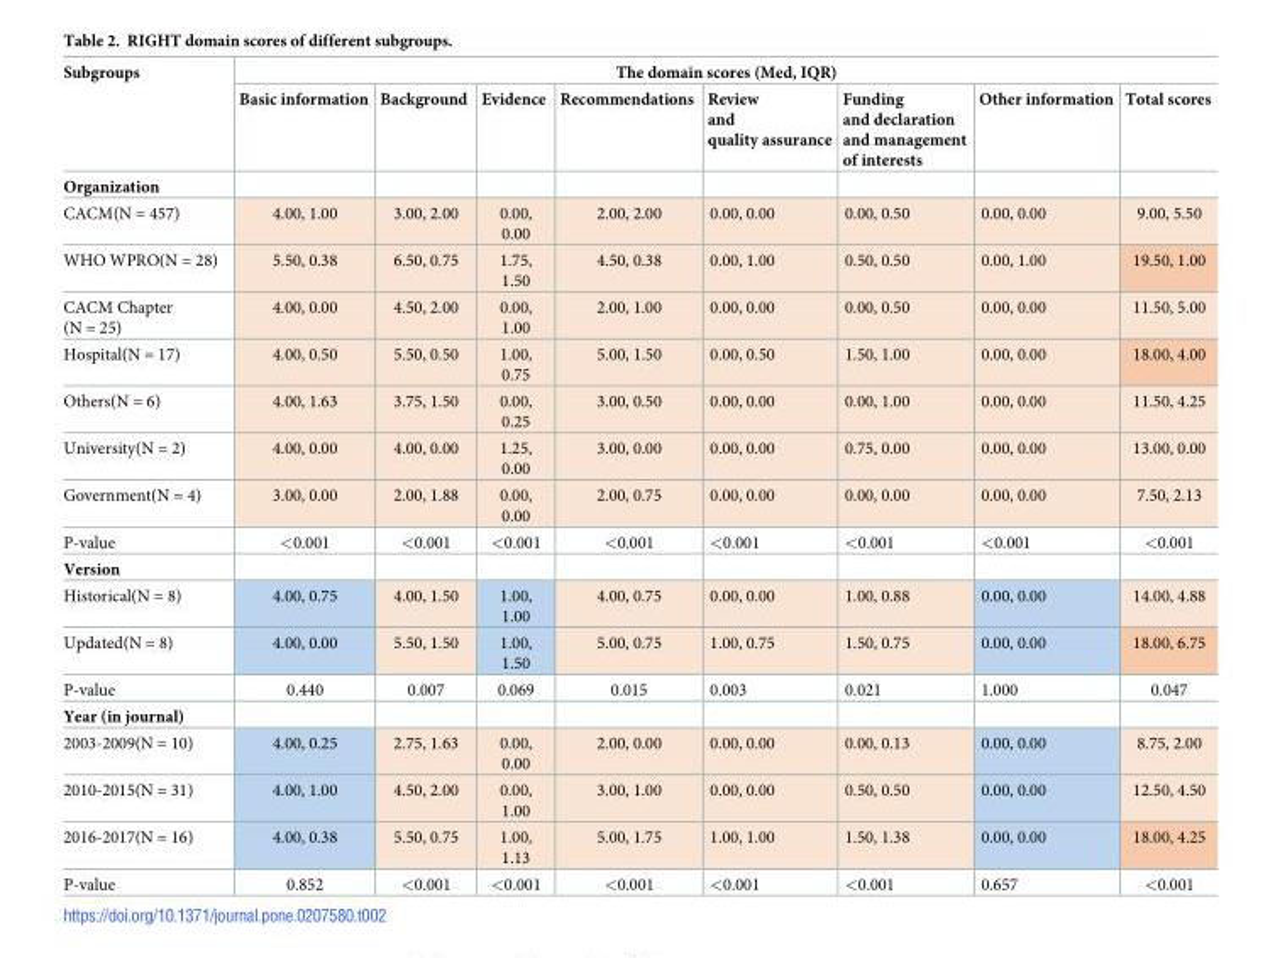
<table><thead><tr><td rowspan="2">Subgroups</td><td colspan="8">The domain scores (Med, IQR)</td></tr><tr><td>Basic information</td><td>Background</td><td>Evidence</td><td>Recommendations</td><td>Review and quality assurance</td><td>Funding and declaration and management of interests</td><td>Other information</td><td>Total scores</td></tr></thead><tbody><tr><td colspan="9">Organization</td></tr><tr><td>CACM(N = 457)</td><td>4.00, 1.00</td><td>3.00, 2.00</td><td>0.00, 0.00</td><td>2.00, 2.00</td><td>0.00, 0.00</td><td>0.00, 0.50</td><td>0.00, 0.00</td><td>9.00, 5.50</td></tr><tr><td>WHO WPRO(N = 28)</td><td>5.50, 0.38</td><td>6.50, 0.75</td><td>1.75, 1.50</td><td>4.50, 0.38</td><td>0.00, 1.00</td><td>0.50, 0.50</td><td>0.00, 1.00</td><td>19.50, 1.00</td></tr><tr><td>CACM Chapter (N = 25)</td><td>4.00, 0.00</td><td>4.50, 2.00</td><td>0.00, 1.00</td><td>2.00, 1.00</td><td>0.00, 0.00</td><td>0.00, 0.50</td><td>0.00, 0.00</td><td>11.50, 5.00</td></tr><tr><td>Hospital(N = 17)</td><td>4.00, 0.50</td><td>5.50, 0.50</td><td>1.00, 0.75</td><td>5.00, 1.50</td><td>0.00, 0.50</td><td>1.50, 1.00</td><td>0.00, 0.00</td><td>18.00, 4.00</td></tr><tr><td>Others(N = 6)</td><td>4.00, 1.63</td><td>3.75, 1.50</td><td>0.00, 0.25</td><td>3.00, 0.50</td><td>0.00, 0.00</td><td>0.00, 1.00</td><td>0.00, 0.00</td><td>11.50, 4.25</td></tr><tr><td>University(N = 2)</td><td>4.00, 0.00</td><td>4.00, 0.00</td><td>1.25, 0.00</td><td>3.00, 0.00</td><td>0.00, 0.00</td><td>0.75, 0.00</td><td>0.00, 0.00</td><td>13.00, 0.00</td></tr><tr><td>Government(N = 4)</td><td>3.00, 0.00</td><td>2.00, 1.88</td><td>0.00, 0.00</td><td>2.00, 0.75</td><td>0.00, 0.00</td><td>0.00, 0.00</td><td>0.00, 0.00</td><td>7.50, 2.13</td></tr><tr><td>P-value</td><td>&lt;0.001</td><td>&lt;0.001</td><td>&lt;0.001</td><td>&lt;0.001</td><td>&lt;0.001</td><td>&lt;0.001</td><td>&lt;0.001</td><td>&lt;0.001</td></tr><tr><td colspan="9">Version</td></tr><tr><td>Historical(N = 8)</td><td>4.00, 0.75</td><td>4.00, 1.50</td><td>1.00, 1.00</td><td>4.00, 0.75</td><td>0.00, 0.00</td><td>1.00, 0.88</td><td>0.00, 0.00</td><td>14.00, 4.88</td></tr><tr><td>Updated(N = 8)</td><td>4.00, 0.00</td><td>5.50, 1.50</td><td>1.00, 1.50</td><td>5.00, 0.75</td><td>1.00, 0.75</td><td>1.50, 0.75</td><td>0.00, 0.00</td><td>18.00, 6.75</td></tr><tr><td>P-value</td><td>0.440</td><td>0.007</td><td>0.069</td><td>0.015</td><td>0.003</td><td>0.021</td><td>1.000</td><td>0.047</td></tr><tr><td colspan="9">Year (in journal)</td></tr><tr><td>2003-2009(N = 10)</td><td>4.00, 0.25</td><td>2.75, 1.63</td><td>0.00, 0.00</td><td>2.00, 0.00</td><td>0.00, 0.00</td><td>0.00, 0.13</td><td>0.00, 0.00</td><td>8.75, 2.00</td></tr><tr><td>2010-2015(N = 31)</td><td>4.00, 1.00</td><td>4.50, 2.00</td><td>0.00, 1.00</td><td>3.00, 1.00</td><td>0.00, 0.00</td><td>0.50, 0.50</td><td>0.00, 0.00</td><td>12.50, 4.50</td></tr><tr><td>2016-2017(N = 16)</td><td>4.00, 0.38</td><td>5.50, 0.75</td><td>1.00, 1.13</td><td>5.00, 1.75</td><td>1.00, 1.00</td><td>1.50, 1.38</td><td>0.00, 0.00</td><td>18.00, 4.25</td></tr><tr><td>P-value</td><td>0.852</td><td>&lt;0.001</td><td>&lt;0.001</td><td>&lt;0.001</td><td>&lt;0.001</td><td>&lt;0.001</td><td>0.657</td><td>&lt;0.001</td></tr></tbody></table>